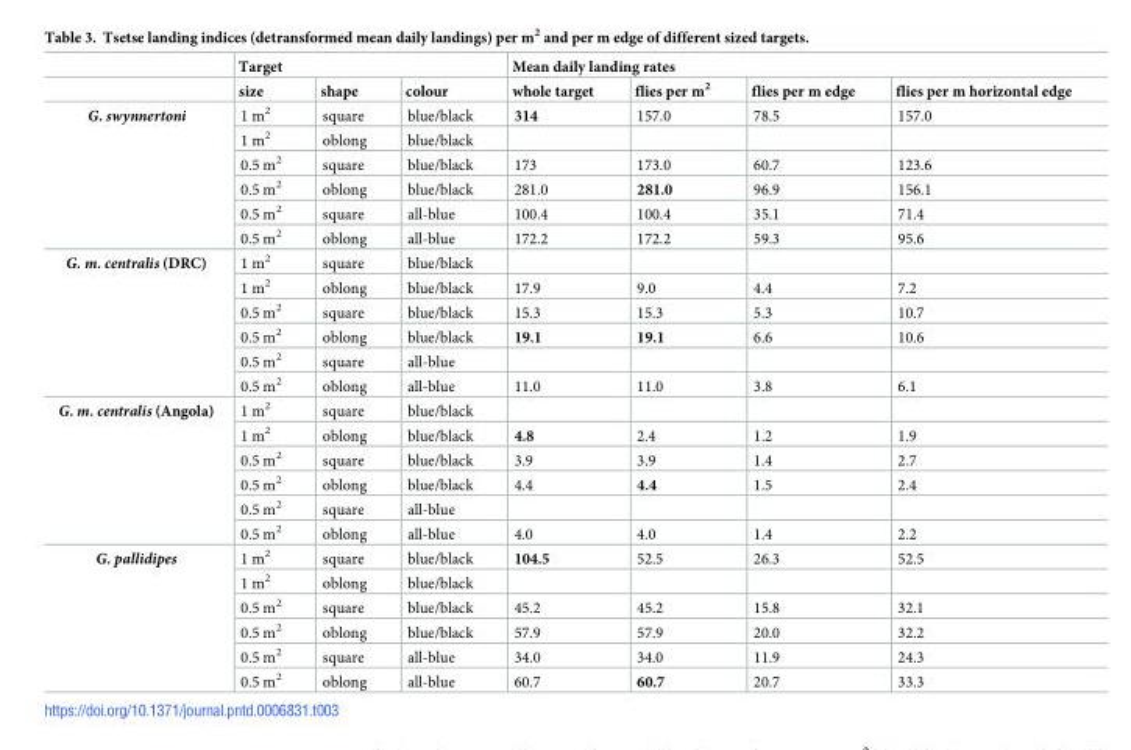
<table><thead><tr><td rowspan="2"></td><td colspan="3">Target</td><td colspan="4">Mean daily landing rates</td></tr><tr><td>size</td><td>shape</td><td>colour</td><td>whole target</td><td>flies per m<sup>2</sup></td><td>flies per m edge</td><td>flies per m horizontal edge</td></tr></thead><tbody><tr><td rowspan="6">G. swynnertoni</td><td>1 m<sup>2</sup></td><td>square</td><td>blue/black</td><td>314</td><td>157.0</td><td>78.5</td><td>157.0</td></tr><tr><td>1 m<sup>2</sup></td><td>oblong</td><td>blue/black</td><td></td><td></td><td></td><td></td></tr><tr><td>0.5 m<sup>2</sup></td><td>square</td><td>blue/black</td><td>173</td><td>173.0</td><td>60.7</td><td>123.6</td></tr><tr><td>0.5 m<sup>2</sup></td><td>oblong</td><td>blue/black</td><td>281.0</td><td>281.0</td><td>96.9</td><td>156.1</td></tr><tr><td>0.5 m<sup>2</sup></td><td>square</td><td>all-blue</td><td>100.4</td><td>100.4</td><td>35.1</td><td>71.4</td></tr><tr><td>0.5 m<sup>2</sup></td><td>oblong</td><td>all-blue</td><td>172.2</td><td>172.2</td><td>59.3</td><td>95.6</td></tr><tr><td rowspan="6">G. m. centralis (DRC)</td><td>1 m<sup>2</sup></td><td>square</td><td>blue/black</td><td></td><td></td><td></td><td></td></tr><tr><td>1 m<sup>2</sup></td><td>oblong</td><td>blue/black</td><td>17.9</td><td>9.0</td><td>4.4</td><td>7.2</td></tr><tr><td>0.5 m<sup>2</sup></td><td>square</td><td>blue/black</td><td>15.3</td><td>15.3</td><td>5.3</td><td>10.7</td></tr><tr><td>0.5 m<sup>2</sup></td><td>oblong</td><td>blue/black</td><td>19.1</td><td>19.1</td><td>6.6</td><td>10.6</td></tr><tr><td>0.5 m<sup>2</sup></td><td>square</td><td>all-blue</td><td></td><td></td><td></td><td></td></tr><tr><td>0.5 m<sup>2</sup></td><td>oblong</td><td>all-blue</td><td>11.0</td><td>11.0</td><td>3.8</td><td>6.1</td></tr><tr><td rowspan="6">G. m. centralis (Angola)</td><td>1 m<sup>2</sup></td><td>square</td><td>blue/black</td><td></td><td></td><td></td><td></td></tr><tr><td>1 m<sup>2</sup></td><td>oblong</td><td>blue/black</td><td>4.8</td><td>2.4</td><td>1.2</td><td>1.9</td></tr><tr><td>0.5 m<sup>2</sup></td><td>square</td><td>blue/black</td><td>3.9</td><td>3.9</td><td>1.4</td><td>2.7</td></tr><tr><td>0.5 m<sup>2</sup></td><td>oblong</td><td>blue/black</td><td>4.4</td><td>4.4</td><td>1.5</td><td>2.4</td></tr><tr><td>0.5 m<sup>2</sup></td><td>square</td><td>all-blue</td><td></td><td></td><td></td><td></td></tr><tr><td>0.5 m<sup>2</sup></td><td>oblong</td><td>all-blue</td><td>4.0</td><td>4.0</td><td>1.4</td><td>2.2</td></tr><tr><td rowspan="6">G. pallidipes</td><td>1 m<sup>2</sup></td><td>square</td><td>blue/black</td><td>104.5</td><td>52.5</td><td>26.3</td><td>52.5</td></tr><tr><td>1 m<sup>2</sup></td><td>oblong</td><td>blue/black</td><td></td><td></td><td></td><td></td></tr><tr><td>0.5 m<sup>2</sup></td><td>square</td><td>blue/black</td><td>45.2</td><td>45.2</td><td>15.8</td><td>32.1</td></tr><tr><td>0.5 m<sup>2</sup></td><td>oblong</td><td>blue/black</td><td>57.9</td><td>57.9</td><td>20.0</td><td>32.2</td></tr><tr><td>0.5 m<sup>2</sup></td><td>square</td><td>all-blue</td><td>34.0</td><td>34.0</td><td>11.9</td><td>24.3</td></tr><tr><td>0.5 m<sup>2</sup></td><td>oblong</td><td>all-blue</td><td>60.7</td><td>60.7</td><td>20.7</td><td>33.3</td></tr></tbody></table>